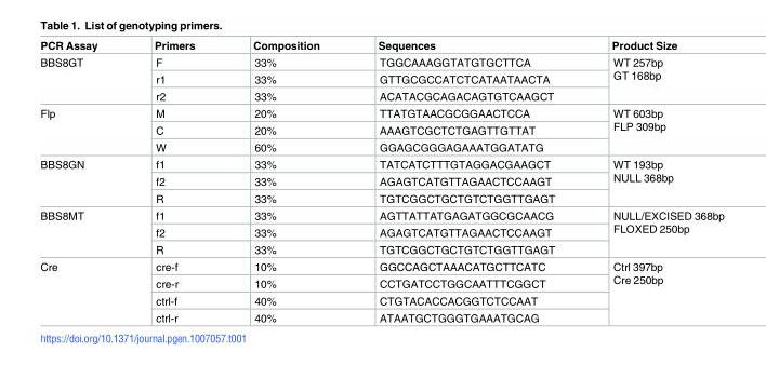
<table><thead><tr><td>PCR Assay</td><td>Primers</td><td>Composition</td><td>Sequences</td><td>Product Size</td></tr></thead><tbody><tr><td rowspan="3">BBS8GT</td><td>F</td><td>33%</td><td>TGGCAAAGGTATGTGCTTCA</td><td rowspan="3">WT 257bp GT 168bp</td></tr><tr><td>r1</td><td>33%</td><td>GTTGCGCCATCTCATAATAACTA</td></tr><tr><td>r2</td><td>33%</td><td>ACATACGCAGACAGTGTCAAGCT</td></tr><tr><td rowspan="3">Flp</td><td>M</td><td>20%</td><td>TTATGTAACGCGGAACTCCA</td><td rowspan="3">WT 603bp FLP 309bp</td></tr><tr><td>C</td><td>20%</td><td>AAAGTCGCTCTGAGTTGTTAT</td></tr><tr><td>W</td><td>60%</td><td>GGAGCGGGAGAAATGGATATG</td></tr><tr><td rowspan="3">BBS8GN</td><td>f1</td><td>33%</td><td>TATCATCTTTGTAGGACGAAGCT</td><td rowspan="3">WT 193bp NULL 368bp</td></tr><tr><td>f2</td><td>33%</td><td>AGAGTCATGTTAGAACTCCAAGT</td></tr><tr><td>R</td><td>33%</td><td>TGTCGGCTGCTGTCTGGTTGAGT</td></tr><tr><td rowspan="3">BBS8MT</td><td>f1</td><td>33%</td><td>AGTTATTATGAGATGGCGCAACG</td><td rowspan="3">NULL/EXCISED 368bp FLOXED 250bp</td></tr><tr><td>f2</td><td>33%</td><td>AGAGTCATGTTAGAACTCCAAGT</td></tr><tr><td>R</td><td>33%</td><td>TGTCGGCTGCTGTCTGGTTGAGT</td></tr><tr><td rowspan="4">Cre</td><td>cre-f</td><td>10%</td><td>GGCCAGCTAAACATGCTTCATC</td><td rowspan="4">Ctrl 397bp Cre 250bp</td></tr><tr><td>cre-r</td><td>10%</td><td>CCTGATCCTGGCAATTTCGGCT</td></tr><tr><td>ctrl-f</td><td>40%</td><td>CTGTACACCACGGTCTCCAAT</td></tr><tr><td>ctrl-r</td><td>40%</td><td>ATAATGCTGGGTGAAATGCAG</td></tr></tbody></table>